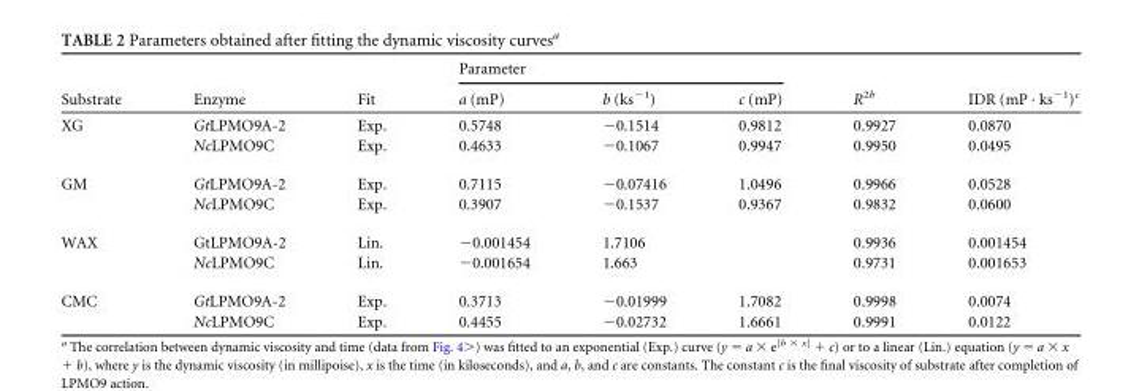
<table><thead><tr><td rowspan="2">Substrate</td><td rowspan="2">Enzyme</td><td rowspan="2">Fit</td><td colspan="3">Parameter</td><td rowspan="2">R<sup>2b</sup></td><td rowspan="2">IDR (mP · ks<sup>−1</sup>)<sup>c</sup></td></tr><tr><td>a (mP)</td><td>b (ks<sup>−1</sup>)</td><td>c (mP)</td></tr></thead><tbody><tr><td rowspan="2">XG</td><td>GtLPMO9A-2</td><td>Exp.</td><td>0.5748</td><td>−0.1514</td><td>0.9812</td><td>0.9927</td><td>0.0870</td></tr><tr><td>NcLPMO9C</td><td>Exp.</td><td>0.4633</td><td>−0.1067</td><td>0.9947</td><td>0.9950</td><td>0.0495</td></tr><tr><td rowspan="2">GM</td><td>GtLPMO9A-2</td><td>Exp.</td><td>0.7115</td><td>−0.07416</td><td>1.0496</td><td>0.9966</td><td>0.0528</td></tr><tr><td>NcLPMO9C</td><td>Exp.</td><td>0.3907</td><td>−0.1537</td><td>0.9367</td><td>0.9832</td><td>0.0600</td></tr><tr><td rowspan="2">WAX</td><td>GtLPMO9A-2</td><td>Lin.</td><td>−0.001454</td><td>1.7106</td><td></td><td>0.9936</td><td>0.001454</td></tr><tr><td>NcLPMO9C</td><td>Lin.</td><td>−0.001654</td><td>1.663</td><td></td><td>0.9731</td><td>0.001653</td></tr><tr><td rowspan="2">CMC</td><td>GtLPMO9A-2</td><td>Exp.</td><td>0.3713</td><td>−0.01999</td><td>1.7082</td><td>0.9998</td><td>0.0074</td></tr><tr><td>NcLPMO9C</td><td>Exp.</td><td>0.4455</td><td>−0.02732</td><td>1.6661</td><td>0.9991</td><td>0.0122</td></tr></tbody></table>